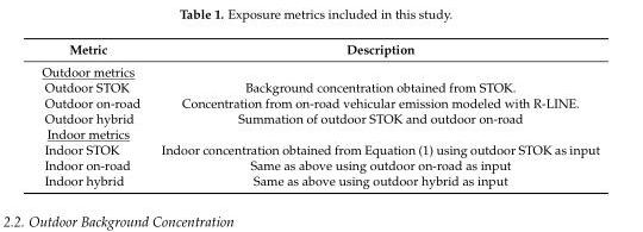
<table><thead><tr><td>Metric</td><td>Description</td></tr></thead><tbody><tr><td colspan="2">Outdoor metrics</td></tr><tr><td>Outdoor STOK</td><td>Background concentration obtained from STOK.</td></tr><tr><td>Outdoor on-road</td><td>Concentration from on-road vehicular emission modeled with R-LINE.</td></tr><tr><td>Outdoor hybrid</td><td>Summation of outdoor STOK and outdoor on-road</td></tr><tr><td colspan="2">Indoor metrics</td></tr><tr><td>Indoor STOK</td><td>Indoor concentration obtained from Equation (1) using outdoor STOK as input</td></tr><tr><td>Indoor on-road</td><td>Same as above using outdoor on-road as input</td></tr><tr><td>Indoor hybrid</td><td>Same as above using outdoor hybrid as input</td></tr></tbody></table>